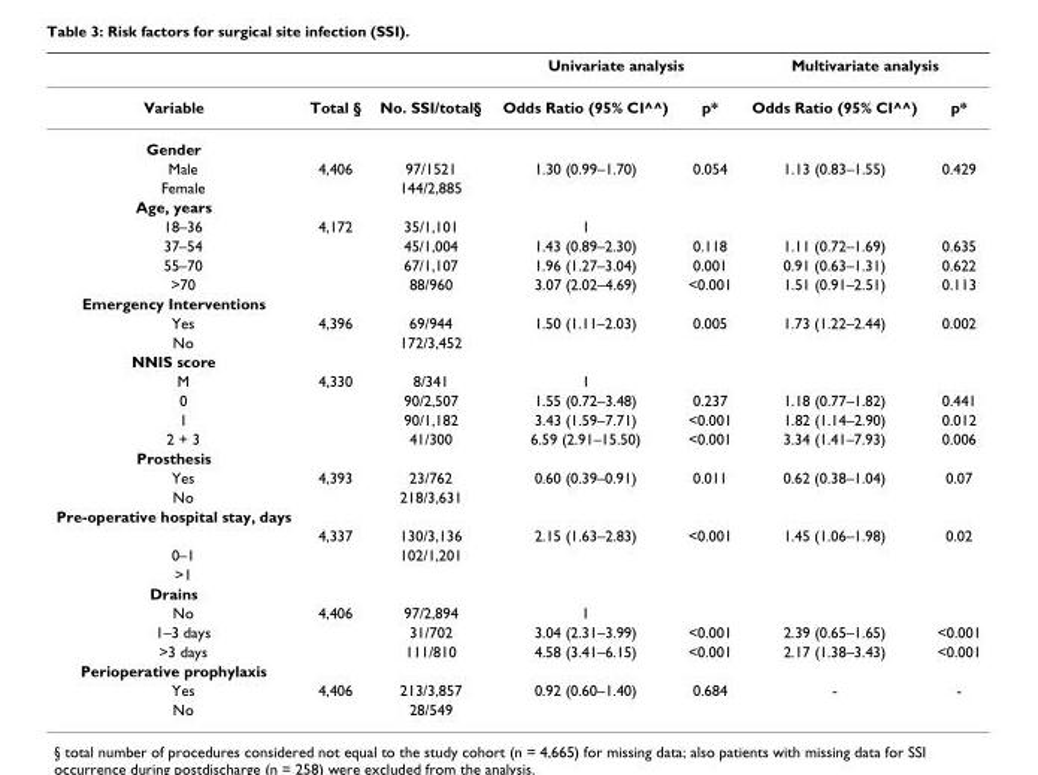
<table><thead><tr><td rowspan="2">Variable</td><td rowspan="2">Total §</td><td rowspan="2">No. SSI/total§</td><td colspan="2">Univariate analysis</td><td colspan="2">Multivariate analysis</td></tr><tr><td>Odds Ratio (95% CI^^)</td><td>p*</td><td>Odds Ratio (95% CI^^)</td><td>p*</td></tr></thead><tbody><tr><td colspan="7">Gender</td></tr><tr><td>Male</td><td>4,406</td><td>97/1521</td><td>1.30 (0.99–1.70)</td><td>0.054</td><td>1.13 (0.83–1.55)</td><td>0.429</td></tr><tr><td>Female</td><td></td><td>144/2,885</td><td></td><td></td><td></td><td></td></tr><tr><td colspan="7">Age, years</td></tr><tr><td>18–36</td><td>4,172</td><td>35/1,101</td><td>1</td><td></td><td></td><td></td></tr><tr><td>37–54</td><td></td><td>45/1,004</td><td>1.43 (0.89–2.30)</td><td>0.118</td><td>1.11 (0.72–1.69)</td><td>0.635</td></tr><tr><td>55–70</td><td></td><td>67/1,107</td><td>1.96 (1.27–3.04)</td><td>0.001</td><td>0.91 (0.63–1.31)</td><td>0.622</td></tr><tr><td>&gt;70</td><td></td><td>88/960</td><td>3.07 (2.02–4.69)</td><td>&lt;0.001</td><td>1.51 (0.91–2.51)</td><td>0.113</td></tr><tr><td colspan="7">Emergency Interventions</td></tr><tr><td>Yes</td><td>4,396</td><td>69/944</td><td>1.50 (1.11–2.03)</td><td>0.005</td><td>1.73 (1.22–2.44)</td><td>0.002</td></tr><tr><td>No</td><td></td><td>172/3,452</td><td></td><td></td><td></td><td></td></tr><tr><td colspan="7">NNIS score</td></tr><tr><td>M</td><td>4,330</td><td>8/341</td><td>1</td><td></td><td></td><td></td></tr><tr><td>0</td><td></td><td>90/2,507</td><td>1.55 (0.72–3.48)</td><td>0.237</td><td>1.18 (0.77–1.82)</td><td>0.441</td></tr><tr><td>1</td><td></td><td>90/1,182</td><td>3.43 (1.59–7.71)</td><td>&lt;0.001</td><td>1.82 (1.14–2.90)</td><td>0.012</td></tr><tr><td>2 + 3</td><td></td><td>41/300</td><td>6.59 (2.91–15.50)</td><td>&lt;0.001</td><td>3.34 (1.41–7.93)</td><td>0.006</td></tr><tr><td colspan="7">Prosthesis</td></tr><tr><td>Yes</td><td>4,393</td><td>23/762</td><td>0.60 (0.39–0.91)</td><td>0.011</td><td>0.62 (0.38–1.04)</td><td>0.07</td></tr><tr><td>No</td><td></td><td>218/3,631</td><td></td><td></td><td></td><td></td></tr><tr><td colspan="7">Pre-operative hospital stay, days</td></tr><tr><td></td><td>4,337</td><td>130/3,136</td><td>2.15 (1.63–2.83)</td><td>&lt;0.001</td><td>1.45 (1.06–1.98)</td><td>0.02</td></tr><tr><td>0–1</td><td></td><td>102/1,201</td><td></td><td></td><td></td><td></td></tr><tr><td colspan="7">&gt;1</td></tr><tr><td colspan="7">Drains</td></tr><tr><td>No</td><td>4,406</td><td>97/2,894</td><td>1</td><td></td><td></td><td></td></tr><tr><td>1–3 days</td><td></td><td>31/702</td><td>3.04 (2.31–3.99)</td><td>&lt;0.001</td><td>2.39 (0.65–1.65)</td><td>&lt;0.001</td></tr><tr><td>&gt;3 days</td><td></td><td>111/810</td><td>4.58 (3.41–6.15)</td><td>&lt;0.001</td><td>2.17 (1.38–3.43)</td><td>&lt;0.001</td></tr><tr><td colspan="7">Perioperative prophylaxis</td></tr><tr><td>Yes</td><td>4,406</td><td>213/3,857</td><td>0.92 (0.60–1.40)</td><td>0.684</td><td>-</td><td>-</td></tr><tr><td>No</td><td></td><td>28/549</td><td></td><td></td><td></td><td></td></tr></tbody></table>